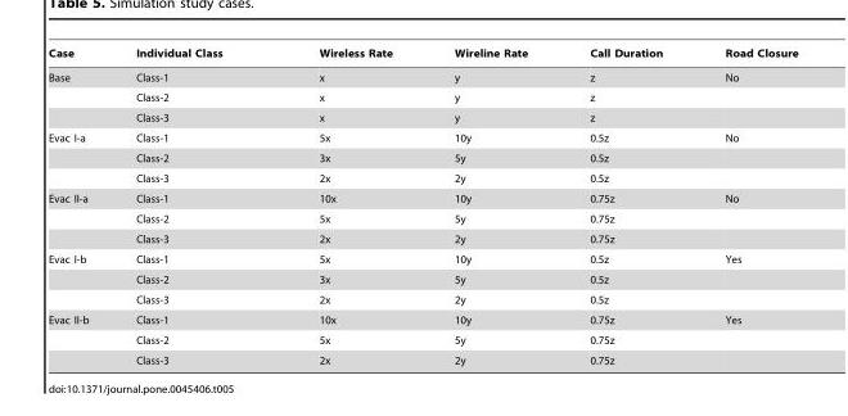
<table><thead><tr><td>Case</td><td>Individual Class</td><td>Wireless Rate</td><td>Wireline Rate</td><td>Call Duration</td><td>Road Closure</td></tr></thead><tbody><tr><td rowspan="3">Base</td><td>Class-1</td><td>x</td><td>y</td><td>z</td><td>No</td></tr><tr><td>Class-2</td><td>x</td><td>y</td><td>z</td><td></td></tr><tr><td>Class-3</td><td>x</td><td>y</td><td>z</td><td></td></tr><tr><td rowspan="3">Evac I-a</td><td>Class-1</td><td>5x</td><td>10y</td><td>0.5z</td><td>No</td></tr><tr><td>Class-2</td><td>3x</td><td>5y</td><td>0.5z</td><td></td></tr><tr><td>Class-3</td><td>2x</td><td>2y</td><td>0.5z</td><td></td></tr><tr><td rowspan="3">Evac II-a</td><td>Class-1</td><td>10x</td><td>10y</td><td>0.75z</td><td>No</td></tr><tr><td>Class-2</td><td>5x</td><td>5y</td><td>0.75z</td><td></td></tr><tr><td>Class-3</td><td>2x</td><td>2y</td><td>0.75z</td><td></td></tr><tr><td rowspan="3">Evac I-b</td><td>Class-1</td><td>5x</td><td>10y</td><td>0.5z</td><td>Yes</td></tr><tr><td>Class-2</td><td>3x</td><td>5y</td><td>0.5z</td><td></td></tr><tr><td>Class-3</td><td>2x</td><td>2y</td><td>0.5z</td><td></td></tr><tr><td rowspan="3">Evac II-b</td><td>Class-1</td><td>10x</td><td>10y</td><td>0.75z</td><td>Yes</td></tr><tr><td>Class-2</td><td>5x</td><td>5y</td><td>0.75z</td><td></td></tr><tr><td>Class-3</td><td>2x</td><td>2y</td><td>0.75z</td><td></td></tr></tbody></table>